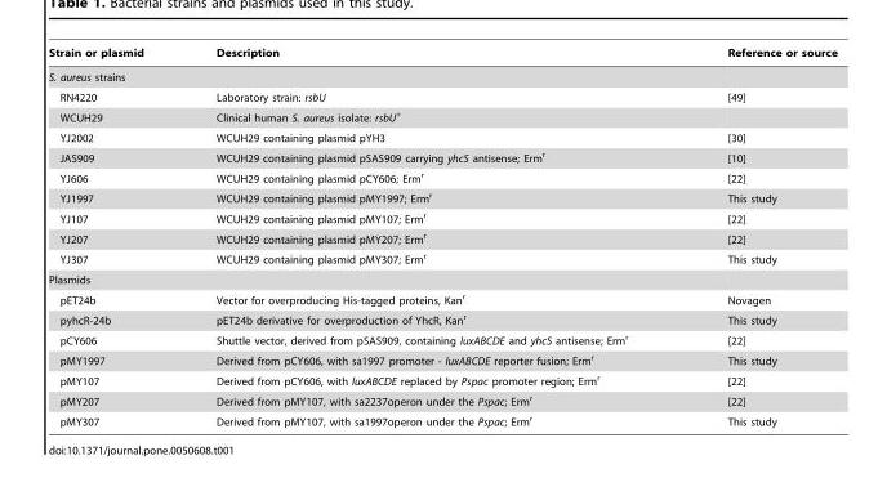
<table><thead><tr><td>Strain or plasmid</td><td>Description</td><td>Reference or source</td></tr></thead><tbody><tr><td colspan="3">S. aureus strains</td></tr><tr><td>RN4220</td><td>Laboratory strain: rsbU</td><td>[49]</td></tr><tr><td>WCUH29</td><td>Clinical human S. aureus isolate: rsbU<sup>+</sup></td><td></td></tr><tr><td>YJ2002</td><td>WCUH29 containing plasmid pYH3</td><td>[30]</td></tr><tr><td>JAS909</td><td>WCUH29 containing plasmid pSAS909 carrying yhcS antisense; Erm<sup>r</sup></td><td>[10]</td></tr><tr><td>YJ606</td><td>WCUH29 containing plasmid pCY606; Erm<sup>r</sup></td><td>[22]</td></tr><tr><td>YJ1997</td><td>WCUH29 containing plasmid pMY1997; Erm<sup>r</sup></td><td>This study</td></tr><tr><td>YJ107</td><td>WCUH29 containing plasmid pMY107; Erm<sup>r</sup></td><td>[22]</td></tr><tr><td>YJ207</td><td>WCUH29 containing plasmid pMY207; Erm<sup>r</sup></td><td>[22]</td></tr><tr><td>YJ307</td><td>WCUH29 containing plasmid pMY307; Erm<sup>r</sup></td><td>This study</td></tr><tr><td colspan="3">Plasmids</td></tr><tr><td>pET24b</td><td>Vector for overproducing His-tagged proteins, Kan<sup>r</sup></td><td>Novagen</td></tr><tr><td>pyhcR-24b</td><td>pET24b derivative for overproduction of YhcR, Kan<sup>r</sup></td><td>This study</td></tr><tr><td>pCY606</td><td>Shuttle vector, derived from pSAS909, containing luxABCDE and yhcS antisense; Erm<sup>r</sup></td><td>[22]</td></tr><tr><td>pMY1997</td><td>Derived from pCY606, with sa1997 promoter - luxABCDE reporter fusion; Erm<sup>r</sup></td><td>This study</td></tr><tr><td>pMY107</td><td>Derived from pCY606, with luxABCDE replaced by Pspac promoter region; Erm<sup>r</sup></td><td>[22]</td></tr><tr><td>pMY207</td><td>Derived from pMY107, with sa2237operon under the Pspac; Erm<sup>r</sup></td><td>[22]</td></tr><tr><td>pMY307</td><td>Derived from pMY107, with sa1997operon under the Pspac; Erm<sup>r</sup></td><td>This study</td></tr></tbody></table>